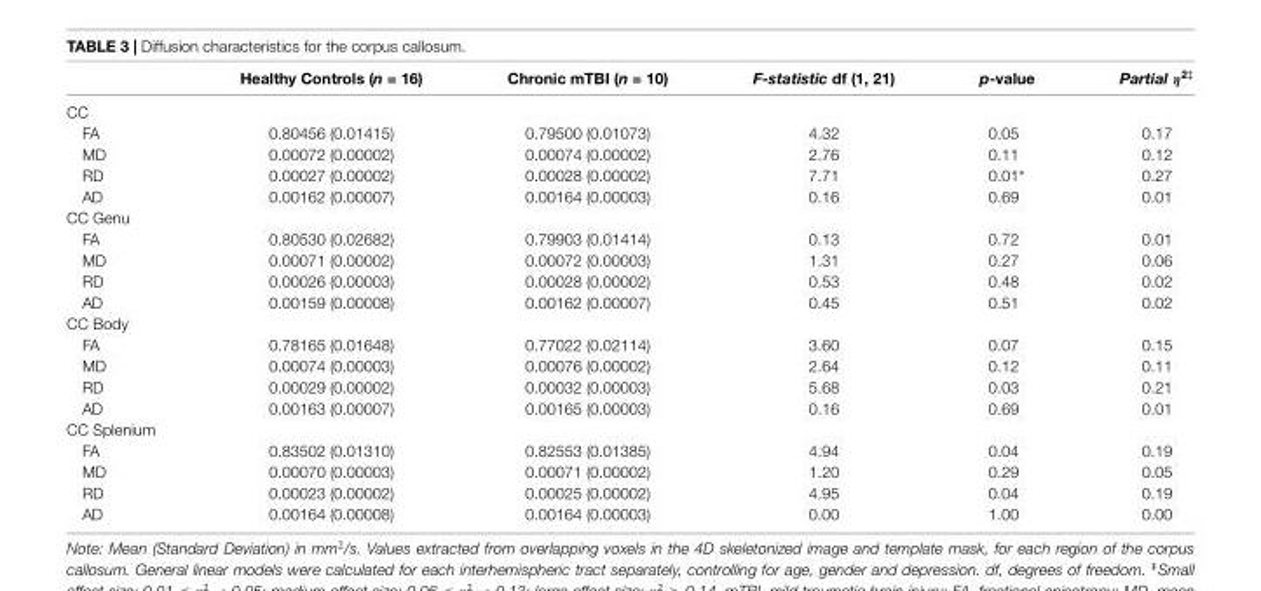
<table><thead><tr><td></td><td>Healthy Controls (n = 16)</td><td>Chronic mTBI (n = 10)</td><td>F-statistic df (1, 21)</td><td>p-value</td><td>Partial η<sup>2‡</sup></td></tr></thead><tbody><tr><td colspan="6">CC</td></tr><tr><td>FA</td><td>0.80456 (0.01415)</td><td>0.79500 (0.01073)</td><td>4.32</td><td>0.05</td><td>0.17</td></tr><tr><td>MD</td><td>0.00072 (0.00002)</td><td>0.00074 (0.00002)</td><td>2.76</td><td>0.11</td><td>0.12</td></tr><tr><td>RD</td><td>0.00027 (0.00002)</td><td>0.00028 (0.00002)</td><td>7.71</td><td>0.01∗</td><td>0.27</td></tr><tr><td>AD</td><td>0.00162 (0.00007)</td><td>0.00164 (0.00003)</td><td>0.16</td><td>0.69</td><td>0.01</td></tr><tr><td colspan="6">CC Genu</td></tr><tr><td>FA</td><td>0.80530 (0.02682)</td><td>0.79903 (0.01414)</td><td>0.13</td><td>0.72</td><td>0.01</td></tr><tr><td>MD</td><td>0.00071 (0.00002)</td><td>0.00072 (0.00003)</td><td>1.31</td><td>0.27</td><td>0.06</td></tr><tr><td>RD</td><td>0.00026 (0.00003)</td><td>0.00028 (0.00002)</td><td>0.53</td><td>0.48</td><td>0.02</td></tr><tr><td>AD</td><td>0.00159 (0.00008)</td><td>0.00162 (0.00007)</td><td>0.45</td><td>0.51</td><td>0.02</td></tr><tr><td colspan="6">CC Body</td></tr><tr><td>FA</td><td>0.78165 (0.01648)</td><td>0.77022 (0.02114)</td><td>3.60</td><td>0.07</td><td>0.15</td></tr><tr><td>MD</td><td>0.00074 (0.00003)</td><td>0.00076 (0.00002)</td><td>2.64</td><td>0.12</td><td>0.11</td></tr><tr><td>RD</td><td>0.00029 (0.00002)</td><td>0.00032 (0.00003)</td><td>5.68</td><td>0.03</td><td>0.21</td></tr><tr><td>AD</td><td>0.00163 (0.00007)</td><td>0.00165 (0.00003)</td><td>0.16</td><td>0.69</td><td>0.01</td></tr><tr><td colspan="6">CC Splenium</td></tr><tr><td>FA</td><td>0.83502 (0.01310)</td><td>0.82553 (0.01385)</td><td>4.94</td><td>0.04</td><td>0.19</td></tr><tr><td>MD</td><td>0.00070 (0.00003)</td><td>0.00071 (0.00002)</td><td>1.20</td><td>0.29</td><td>0.05</td></tr><tr><td>RD</td><td>0.00023 (0.00002)</td><td>0.00025 (0.00002)</td><td>4.95</td><td>0.04</td><td>0.19</td></tr><tr><td>AD</td><td>0.00164 (0.00008)</td><td>0.00164 (0.00003)</td><td>0.00</td><td>1.00</td><td>0.00</td></tr></tbody></table>